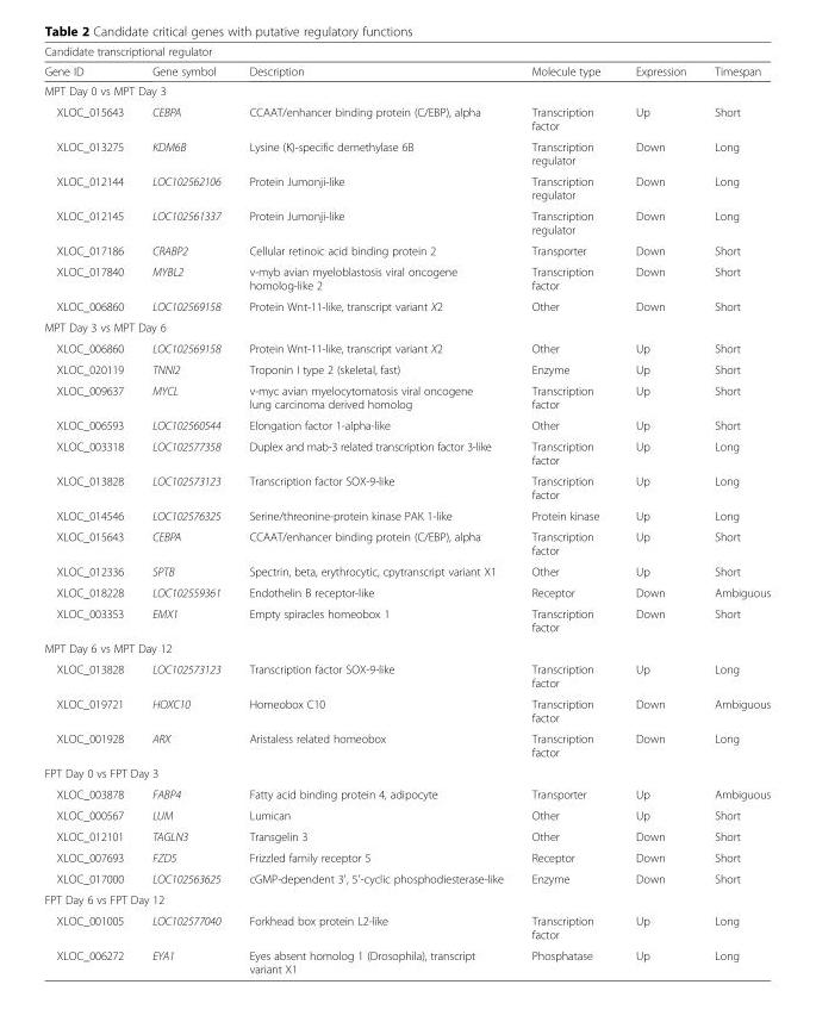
<table><thead><tr><td colspan="6">Candidate transcriptional regulator</td></tr><tr><td>Gene ID</td><td>Gene symbol</td><td>Description</td><td>Molecule type</td><td>Expression</td><td>Timespan</td></tr></thead><tbody><tr><td colspan="6">MPT Day 0 vs MPT Day 3</td></tr><tr><td>XLOC_015643</td><td>CEBPA</td><td>CCAAT/enhancer binding protein (C/EBP), alpha</td><td>Transcription factor</td><td>Up</td><td>Short</td></tr><tr><td>XLOC_013275</td><td>KDM6B</td><td>Lysine (K)-specific demethylase 6B</td><td>Transcription regulator</td><td>Down</td><td>Long</td></tr><tr><td>XLOC_012144</td><td>LOC102562106</td><td>Protein Jumonji-like</td><td>Transcription regulator</td><td>Down</td><td>Long</td></tr><tr><td>XLOC_012145</td><td>LOC102561337</td><td>Protein Jumonji-like</td><td>Transcription regulator</td><td>Down</td><td>Long</td></tr><tr><td>XLOC_017186</td><td>CRABP2</td><td>Cellular retinoic acid binding protein 2</td><td>Transporter</td><td>Down</td><td>Short</td></tr><tr><td>XLOC_017840</td><td>MYBL2</td><td>v-myb avian myeloblastosis viral oncogene homolog-like 2</td><td>Transcription factor</td><td>Down</td><td>Short</td></tr><tr><td>XLOC_006860</td><td>LOC102569158</td><td>Protein Wnt-11-like, transcript variant X2</td><td>Other</td><td>Down</td><td>Short</td></tr><tr><td colspan="6">MPT Day 3 vs MPT Day 6</td></tr><tr><td>XLOC_006860</td><td>LOC102569158</td><td>Protein Wnt-11-like, transcript variant X2</td><td>Other</td><td>Up</td><td>Short</td></tr><tr><td>XLOC_020119</td><td>TNNI2</td><td>Troponin I type 2 (skeletal, fast)</td><td>Enzyme</td><td>Up</td><td>Short</td></tr><tr><td>XLOC_009637</td><td>MYCL</td><td>v-myc avian myelocytomatosis viral oncogene lung carcinoma derived homolog</td><td>Transcription factor</td><td>Up</td><td>Short</td></tr><tr><td>XLOC_006593</td><td>LOC102560544</td><td>Elongation factor 1-alpha-like</td><td>Other</td><td>Up</td><td>Short</td></tr><tr><td>XLOC_003318</td><td>LOC102577358</td><td>Duplex and mab-3 related transcription factor 3-like</td><td>Transcription factor</td><td>Up</td><td>Long</td></tr><tr><td>XLOC_013828</td><td>LOC102573123</td><td>Transcription factor SOX-9-like</td><td>Transcription factor</td><td>Up</td><td>Long</td></tr><tr><td>XLOC_014546</td><td>LOC102576325</td><td>Serine/threonine-protein kinase PAK 1-like</td><td>Protein kinase</td><td>Up</td><td>Long</td></tr><tr><td>XLOC_015643</td><td>CEBPA</td><td>CCAAT/enhancer binding protein (C/EBP), alpha</td><td>Transcription factor</td><td>Up</td><td>Short</td></tr><tr><td>XLOC_012336</td><td>SPTB</td><td>Spectrin, beta, erythrocytic, cpytranscript variant X1</td><td>Other</td><td>Up</td><td>Short</td></tr><tr><td>XLOC_018228</td><td>LOC102559361</td><td>Endothelin B receptor-like</td><td>Receptor</td><td>Down</td><td>Ambiguous</td></tr><tr><td>XLOC_003353</td><td>EMX1</td><td>Empty spiracles homeobox 1</td><td>Transcription factor</td><td>Down</td><td>Short</td></tr><tr><td colspan="6">MPT Day 6 vs MPT Day 12</td></tr><tr><td>XLOC_013828</td><td>LOC102573123</td><td>Transcription factor SOX-9-like</td><td>Transcription factor</td><td>Up</td><td>Long</td></tr><tr><td>XLOC_019721</td><td>HOXC10</td><td>Homeobox C10</td><td>Transcription factor</td><td>Down</td><td>Ambiguous</td></tr><tr><td>XLOC_001928</td><td>ARX</td><td>Aristaless related homeobox</td><td>Transcription factor</td><td>Down</td><td>Long</td></tr><tr><td colspan="6">FPT Day 0 vs FPT Day 3</td></tr><tr><td>XLOC_003878</td><td>FABP4</td><td>Fatty acid binding protein 4, adipocyte</td><td>Transporter</td><td>Up</td><td>Ambiguous</td></tr><tr><td>XLOC_000567</td><td>LUM</td><td>Lumican</td><td>Other</td><td>Up</td><td>Short</td></tr><tr><td>XLOC_012101</td><td>TAGLN3</td><td>Transgelin 3</td><td>Other</td><td>Down</td><td>Short</td></tr><tr><td>XLOC_007693</td><td>FZD5</td><td>Frizzled family receptor 5</td><td>Receptor</td><td>Down</td><td>Short</td></tr><tr><td>XLOC_017000</td><td>LOC102563625</td><td>cGMP-dependent 3′, 5′-cyclic phosphodiesterase-like</td><td>Enzyme</td><td>Down</td><td>Short</td></tr><tr><td colspan="6">FPT Day 6 vs FPT Day 12</td></tr><tr><td>XLOC_001005</td><td>LOC102577040</td><td>Forkhead box protein L2-like</td><td>Transcription factor</td><td>Up</td><td>Long</td></tr><tr><td>XLOC_006272</td><td>EYA1</td><td>Eyes absent homolog 1 (Drosophila), transcript variant X1</td><td>Phosphatase</td><td>Up</td><td>Long</td></tr></tbody></table>